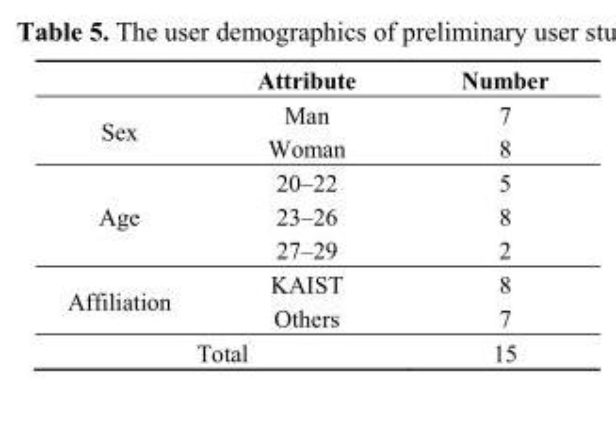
<table><thead><tr><td></td><td>Attribute</td><td>Number</td></tr></thead><tbody><tr><td rowspan="2">Sex</td><td>Man</td><td>7</td></tr><tr><td>Woman</td><td>8</td></tr><tr><td rowspan="3">Age</td><td>20–22</td><td>5</td></tr><tr><td>23–26</td><td>8</td></tr><tr><td>27–29</td><td>2</td></tr><tr><td rowspan="2">Affiliation</td><td>KAIST</td><td>8</td></tr><tr><td>Others</td><td>7</td></tr><tr><td colspan="2">Total</td><td>15</td></tr></tbody></table>